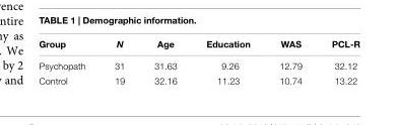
<table><thead><tr><td>Group</td><td>N</td><td>Age</td><td>Education</td><td>WAS</td><td>PCL-R</td></tr></thead><tbody><tr><td>Psychopath</td><td>31</td><td>31.63</td><td>9.26</td><td>12.79</td><td>32.12</td></tr><tr><td>Control</td><td>19</td><td>32.16</td><td>11.23</td><td>10.74</td><td>13.22</td></tr></tbody></table>